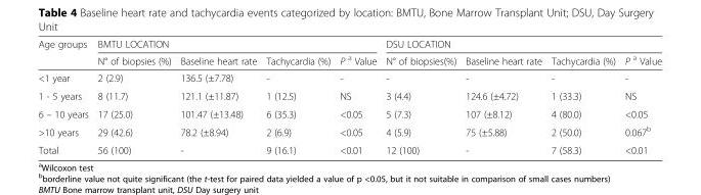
<table><thead><tr><td rowspan="2">Age groups</td><td colspan="4">BMTU LOCATION</td><td colspan="4">DSU LOCATION</td></tr><tr><td>N° of biopsies (%)</td><td>Baseline heart rate</td><td>Tachycardia (%)</td><td>P <sup>a</sup> Value</td><td>N° of biopsies(%)</td><td>Baseline heart rate</td><td>Tachycardia (%)</td><td>P <sup>a</sup> Value</td></tr></thead><tbody><tr><td>&lt;1 year</td><td>2 (2.9)</td><td>136.5 (±7.78)</td><td>-</td><td>-</td><td>-</td><td>-</td><td>-</td><td>-</td></tr><tr><td>1 - 5 years</td><td>8 (11.7)</td><td>121.1 (±11.87)</td><td>1 (12.5)</td><td>NS</td><td>3 (4.4)</td><td>124.6 (±4.72)</td><td>1 (33.3)</td><td>NS</td></tr><tr><td>6 – 10 years</td><td>17 (25.0)</td><td>101.47 (±13.48)</td><td>6 (35.3)</td><td>&lt;0.05</td><td>5 (7.3)</td><td>107 (±8.12)</td><td>4 (80.0)</td><td>&lt;0.05</td></tr><tr><td>&gt;10 years</td><td>29 (42.6)</td><td>78.2 (±8.94)</td><td>2 (6.9)</td><td>&lt;0.05</td><td>4 (5.9)</td><td>75 (±5.88)</td><td>2 (50.0)</td><td>0.067<sup>b</sup></td></tr><tr><td>Total</td><td>56 (100)</td><td>-</td><td>9 (16.1)</td><td>&lt;0.01</td><td>12 (100)</td><td>-</td><td>7 (58.3)</td><td>&lt;0.01</td></tr></tbody></table>